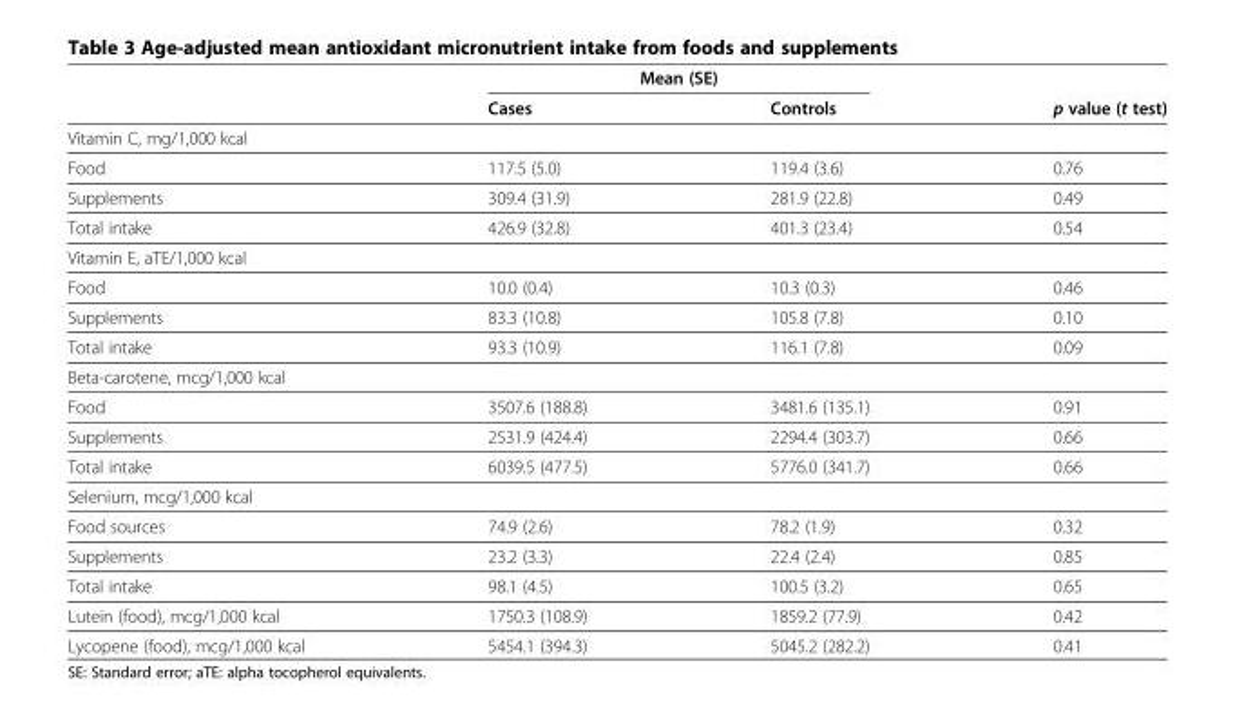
<table><thead><tr><td rowspan="2"></td><td colspan="2">Mean (SE)</td><td rowspan="2">p value (t test)</td></tr><tr><td>Cases</td><td>Controls</td></tr></thead><tbody><tr><td colspan="4">Vitamin C, mg/1,000 kcal</td></tr><tr><td>Food</td><td>117.5 (5.0)</td><td>119.4 (3.6)</td><td>0.76</td></tr><tr><td>Supplements</td><td>309.4 (31.9)</td><td>281.9 (22.8)</td><td>0.49</td></tr><tr><td>Total intake</td><td>426.9 (32.8)</td><td>401.3 (23.4)</td><td>0.54</td></tr><tr><td colspan="4">Vitamin E, aTE/1,000 kcal</td></tr><tr><td>Food</td><td>10.0 (0.4)</td><td>10.3 (0.3)</td><td>0.46</td></tr><tr><td>Supplements</td><td>83.3 (10.8)</td><td>105.8 (7.8)</td><td>0.10</td></tr><tr><td>Total intake</td><td>93.3 (10.9)</td><td>116.1 (7.8)</td><td>0.09</td></tr><tr><td colspan="4">Beta-carotene, mcg/1,000 kcal</td></tr><tr><td>Food</td><td>3507.6 (188.8)</td><td>3481.6 (135.1)</td><td>0.91</td></tr><tr><td>Supplements</td><td>2531.9 (424.4)</td><td>2294.4 (303.7)</td><td>0.66</td></tr><tr><td>Total intake</td><td>6039.5 (477.5)</td><td>5776.0 (341.7)</td><td>0.66</td></tr><tr><td colspan="4">Selenium, mcg/1,000 kcal</td></tr><tr><td>Food sources</td><td>74.9 (2.6)</td><td>78.2 (1.9)</td><td>0.32</td></tr><tr><td>Supplements</td><td>23.2 (3.3)</td><td>22.4 (2.4)</td><td>0.85</td></tr><tr><td>Total intake</td><td>98.1 (4.5)</td><td>100.5 (3.2)</td><td>0.65</td></tr><tr><td>Lutein (food), mcg/1,000 kcal</td><td>1750.3 (108.9)</td><td>1859.2 (77.9)</td><td>0.42</td></tr><tr><td>Lycopene (food), mcg/1,000 kcal</td><td>5454.1 (394.3)</td><td>5045.2 (282.2)</td><td>0.41</td></tr></tbody></table>